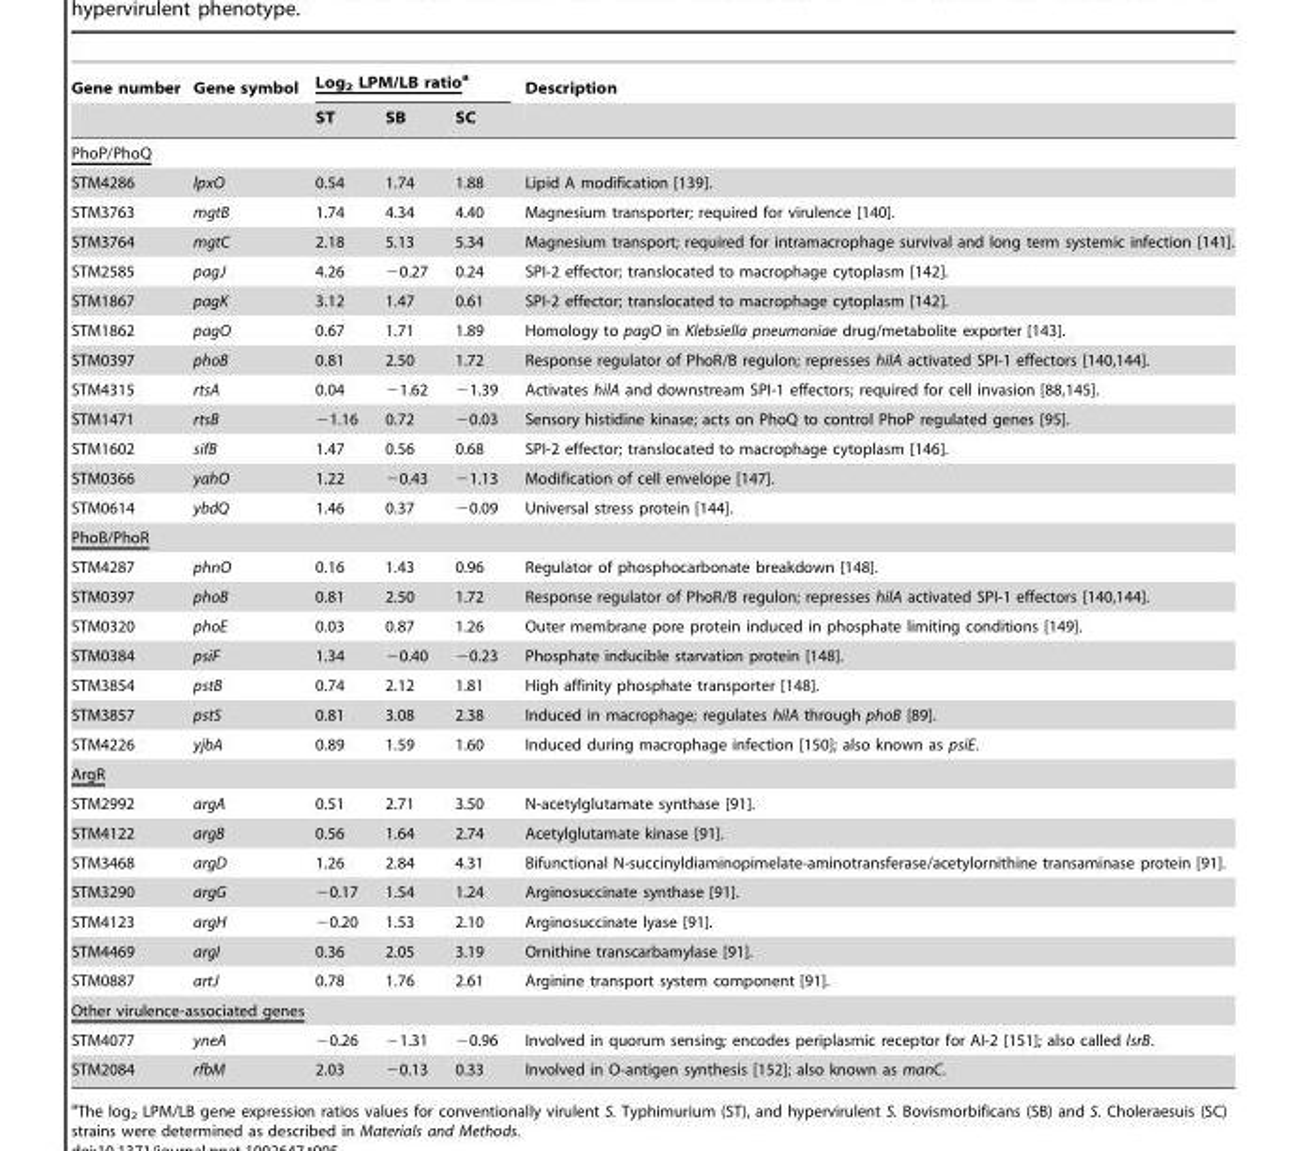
<table><thead><tr><td rowspan="2">Gene number</td><td rowspan="2">Gene symbol</td><td colspan="3">Log<sub>2</sub> LPM/LB ratioa</td><td rowspan="2">Description</td></tr><tr><td>ST</td><td>SB</td><td>SC</td></tr></thead><tbody><tr><td colspan="6">PhoP/PhoQ</td></tr><tr><td>STM4286</td><td>lpxO</td><td>0.54</td><td>1.74</td><td>1.88</td><td>Lipid A modification [139].</td></tr><tr><td>STM3763</td><td>mgtB</td><td>1.74</td><td>4.34</td><td>4.40</td><td>Magnesium transporter; required for virulence [140].</td></tr><tr><td>STM3764</td><td>mgtC</td><td>2.18</td><td>5.13</td><td>5.34</td><td>Magnesium transport; required for intramacrophage survival and long term systemic infection [141].</td></tr><tr><td>STM2585</td><td>pagJ</td><td>4.26</td><td>−0.27</td><td>0.24</td><td>SPI-2 effector; translocated to macrophage cytoplasm [142].</td></tr><tr><td>STM1867</td><td>pagK</td><td>3.12</td><td>1.47</td><td>0.61</td><td>SPI-2 effector; translocated to macrophage cytoplasm [142].</td></tr><tr><td>STM1862</td><td>pagO</td><td>0.67</td><td>1.71</td><td>1.89</td><td>Homology to pagO in Klebsiella pneumoniae drug/metabolite exporter [143].</td></tr><tr><td>STM0397</td><td>phoB</td><td>0.81</td><td>2.50</td><td>1.72</td><td>Response regulator of PhoR/B regulon; represses hilA activated SPI-1 effectors [140,144].</td></tr><tr><td>STM4315</td><td>rtsA</td><td>0.04</td><td>−1.62</td><td>−1.39</td><td>Activates hilA and downstream SPI-1 effectors; required for cell invasion [88,145].</td></tr><tr><td>STM1471</td><td>rtsB</td><td>−1.16</td><td>0.72</td><td>−0.03</td><td>Sensory histidine kinase; acts on PhoQ to control PhoP regulated genes [95].</td></tr><tr><td>STM1602</td><td>sifB</td><td>1.47</td><td>0.56</td><td>0.68</td><td>SPI-2 effector; translocated to macrophage cytoplasm [146].</td></tr><tr><td>STM0366</td><td>yahO</td><td>1.22</td><td>−0.43</td><td>−1.13</td><td>Modification of cell envelope [147].</td></tr><tr><td>STM0614</td><td>ybdQ</td><td>1.46</td><td>0.37</td><td>−0.09</td><td>Universal stress protein [144].</td></tr><tr><td colspan="6">PhoB/PhoR</td></tr><tr><td>STM4287</td><td>phnO</td><td>0.16</td><td>1.43</td><td>0.96</td><td>Regulator of phosphocarbonate breakdown [148].</td></tr><tr><td>STM0397</td><td>phoB</td><td>0.81</td><td>2.50</td><td>1.72</td><td>Response regulator of PhoR/B regulon; represses hilA activated SPI-1 effectors [140,144].</td></tr><tr><td>STM0320</td><td>phoE</td><td>0.03</td><td>0.87</td><td>1.26</td><td>Outer membrane pore protein induced in phosphate limiting conditions [149].</td></tr><tr><td>STM0384</td><td>psiF</td><td>1.34</td><td>−0.40</td><td>−0.23</td><td>Phosphate inducible starvation protein [148].</td></tr><tr><td>STM3854</td><td>pstB</td><td>0.74</td><td>2.12</td><td>1.81</td><td>High affinity phosphate transporter [148].</td></tr><tr><td>STM3857</td><td>pstS</td><td>0.81</td><td>3.08</td><td>2.38</td><td>Induced in macrophage; regulates hilA through phoB [89].</td></tr><tr><td>STM4226</td><td>yjbA</td><td>0.89</td><td>1.59</td><td>1.60</td><td>Induced during macrophage infection [150]; also known as psiE.</td></tr><tr><td colspan="6">ArgR</td></tr><tr><td>STM2992</td><td>argA</td><td>0.51</td><td>2.71</td><td>3.50</td><td>N-acetylglutamate synthase [91].</td></tr><tr><td>STM4122</td><td>argB</td><td>0.56</td><td>1.64</td><td>2.74</td><td>Acetylglutamate kinase [91].</td></tr><tr><td>STM3468</td><td>argD</td><td>1.26</td><td>2.84</td><td>4.31</td><td>Bifunctional N-succinyldiaminopimelate-aminotransferase/acetylornithine transaminase protein [91].</td></tr><tr><td>STM3290</td><td>argG</td><td>−0.17</td><td>1.54</td><td>1.24</td><td>Arginosuccinate synthase [91].</td></tr><tr><td>STM4123</td><td>argH</td><td>−0.20</td><td>1.53</td><td>2.10</td><td>Arginosuccinate lyase [91].</td></tr><tr><td>STM4469</td><td>argI</td><td>0.36</td><td>2.05</td><td>3.19</td><td>Ornithine transcarbamylase [91].</td></tr><tr><td>STM0887</td><td>artJ</td><td>0.78</td><td>1.76</td><td>2.61</td><td>Arginine transport system component [91].</td></tr><tr><td colspan="6">Other virulence-associated genes</td></tr><tr><td>STM4077</td><td>yneA</td><td>−0.26</td><td>−1.31</td><td>−0.96</td><td>Involved in quorum sensing; encodes periplasmic receptor for AI-2 [151]; also called lsrB.</td></tr><tr><td>STM2084</td><td>rfbM</td><td>2.03</td><td>−0.13</td><td>0.33</td><td>Involved in O-antigen synthesis [152]; also known as manC.</td></tr></tbody></table>